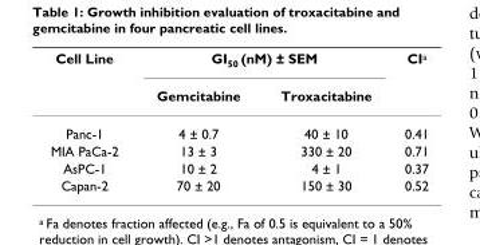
<table><thead><tr><td rowspan="2">Cell Line</td><td colspan="2">GI<sub>50</sub> (nM) ± SEM</td><td rowspan="2">CI<sup>a</sup></td></tr><tr><td>Gemcitabine</td><td>Troxacitabine</td></tr></thead><tbody><tr><td>Panc-1</td><td>4 ± 0.7</td><td>40 ± 10</td><td>0.41</td></tr><tr><td>MIA PaCa-2</td><td>13 ± 3</td><td>330 ± 20</td><td>0.71</td></tr><tr><td>AsPC-1</td><td>10 ± 2</td><td>4 ± 1</td><td>0.37</td></tr><tr><td>Capan-2</td><td>70 ± 20</td><td>150 ± 30</td><td>0.52</td></tr></tbody></table>